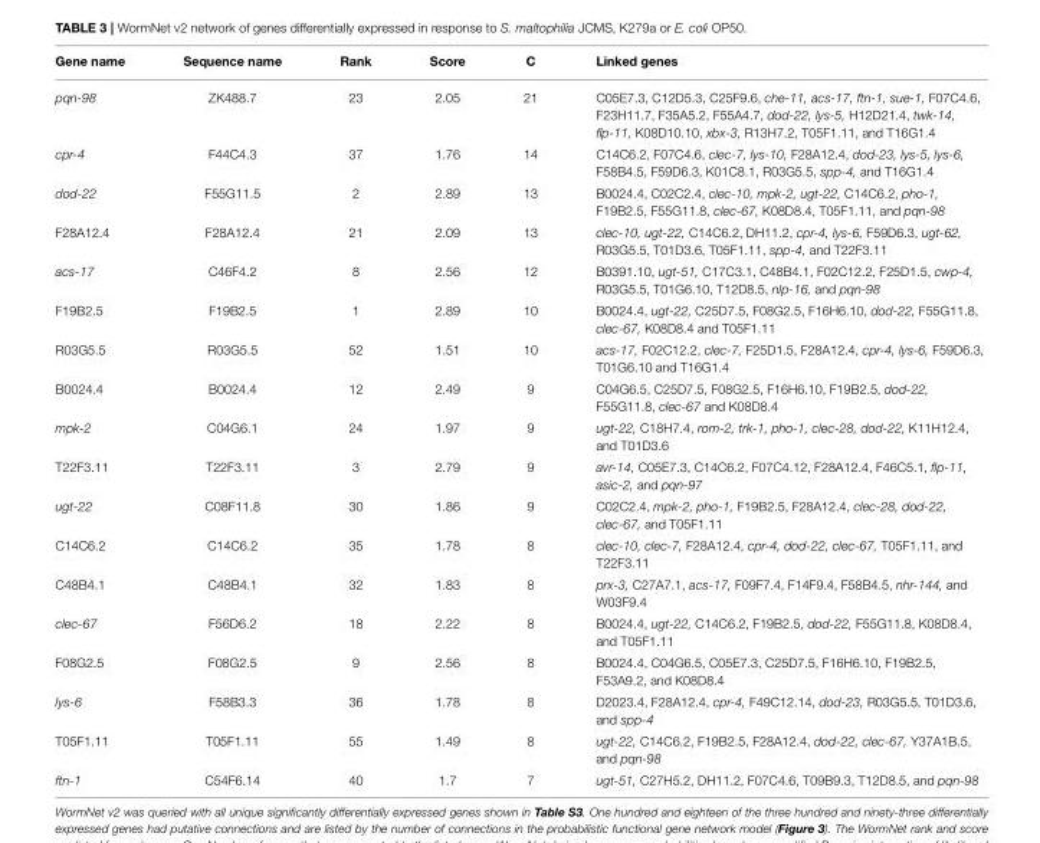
<table><thead><tr><td>Gene name</td><td>Sequence name</td><td>Rank</td><td>Score</td><td>C</td><td>Linked genes</td></tr></thead><tbody><tr><td>pqn-98</td><td>ZK488.7</td><td>23</td><td>2.05</td><td>21</td><td>C05E7.3, C12D5.3, C25F9.6, che-11, acs-17, ftn-1, sue-1, F07C4.6, F23H11.7, F35A5.2, F55A4.7, dod-22, lys-5, H12D21.4, twk-14, flp-11, K08D10.10, xbx-3, R13H7.2, T05F1.11, and T16G1.4</td></tr><tr><td>cpr-4</td><td>F44C4.3</td><td>37</td><td>1.76</td><td>14</td><td>C14C6.2, F07C4.6, clec-7, lys-10, F28A12.4, dod-23, lys-5, lys-6, F58B4.5, F59D6.3, K01C8.1, R03G5.5, spp-4, and T16G1.4</td></tr><tr><td>dod-22</td><td>F55G11.5</td><td>2</td><td>2.89</td><td>13</td><td>B0024.4, C02C2.4, clec-10, mpk-2, ugt-22, C14C6.2, pho-1, F19B2.5, F55G11.8, clec-67, K08D8.4, T05F1.11, and pqn-98</td></tr><tr><td>F28A12.4</td><td>F28A12.4</td><td>21</td><td>2.09</td><td>13</td><td>clec-10, ugt-22, C14C6.2, DH11.2, cpr-4, lys-6, F59D6.3, ugt-62, R03G5.5, T01D3.6, T05F1.11, spp-4, and T22F3.11</td></tr><tr><td>acs-17</td><td>C46F4.2</td><td>8</td><td>2.56</td><td>12</td><td>B0391.10, ugt-51, C17C3.1, C48B4.1, F02C12.2, F25D1.5, cwp-4, R03G5.5, T01G6.10, T12D8.5, nlp-16, and pqn-98</td></tr><tr><td>F19B2.5</td><td>F19B2.5</td><td>1</td><td>2.89</td><td>10</td><td>B0024.4, ugt-22, C25D7.5, F08G2.5, F16H6.10, dod-22, F55G11.8, clec-67, K08D8.4 and T05F1.11</td></tr><tr><td>R03G5.5</td><td>R03G5.5</td><td>52</td><td>1.51</td><td>10</td><td>acs-17, F02C12.2, clec-7, F25D1.5, F28A12.4, cpr-4, lys-6, F59D6.3, T01G6.10 and T16G1.4</td></tr><tr><td>B0024.4</td><td>B0024.4</td><td>12</td><td>2.49</td><td>9</td><td>C04G6.5, C25D7.5, F08G2.5, F16H6.10, F19B2.5, dod-22, F55G11.8, clec-67 and K08D8.4</td></tr><tr><td>mpk-2</td><td>C04G6.1</td><td>24</td><td>1.97</td><td>9</td><td>ugt-22, C18H7.4, rom-2, trk-1, pho-1, clec-28, dod-22, K11H12.4, and T01D3.6</td></tr><tr><td>T22F3.11</td><td>T22F3.11</td><td>3</td><td>2.79</td><td>9</td><td>avr-14, C05E7.3, C14C6.2, F07C4.12, F28A12.4, F46C5.1, flp-11, asic-2, and pqn-97</td></tr><tr><td>ugt-22</td><td>C08F11.8</td><td>30</td><td>1.86</td><td>9</td><td>C02C2.4, mpk-2, pho-1, F19B2.5, F28A12.4, clec-28, dod-22, clec-67, and T05F1.11</td></tr><tr><td>C14C6.2</td><td>C14C6.2</td><td>35</td><td>1.78</td><td>8</td><td>clec-10, clec-7, F28A12.4, cpr-4, dod-22, clec-67, T05F1.11, and T22F3.11</td></tr><tr><td>C48B4.1</td><td>C48B4.1</td><td>32</td><td>1.83</td><td>8</td><td>prx-3, C27A7.1, acs-17, F09F7.4, F14F9.4, F58B4.5, nhr-144, and W03F9.4</td></tr><tr><td>clec-67</td><td>F56D6.2</td><td>18</td><td>2.22</td><td>8</td><td>B0024.4, ugt-22, C14C6.2, F19B2.5, dod-22, F55G11.8, K08D8.4, and T05F1.11</td></tr><tr><td>F08G2.5</td><td>F08G2.5</td><td>9</td><td>2.56</td><td>8</td><td>B0024.4, C04G6.5, C05E7.3, C25D7.5, F16H6.10, F19B2.5, F53A9.2, and K08D8.4</td></tr><tr><td>lys-6</td><td>F58B3.3</td><td>36</td><td>1.78</td><td>8</td><td>D2023.4, F28A12.4, cpr-4, F49C12.14, dod-23, R03G5.5, T01D3.6, and spp-4</td></tr><tr><td>T05F1.11</td><td>T05F1.11</td><td>55</td><td>1.49</td><td>8</td><td>ugt-22, C14C6.2, F19B2.5, F28A12.4, dod-22, clec-67, Y37A1B.5, and pqn-98</td></tr><tr><td>ftn-1</td><td>C54F6.14</td><td>40</td><td>1.7</td><td>7</td><td>ugt-51, C27H5.2, DH11.2, F07C4.6, T09B9.3, T12D8.5, and pqn-98</td></tr></tbody></table>